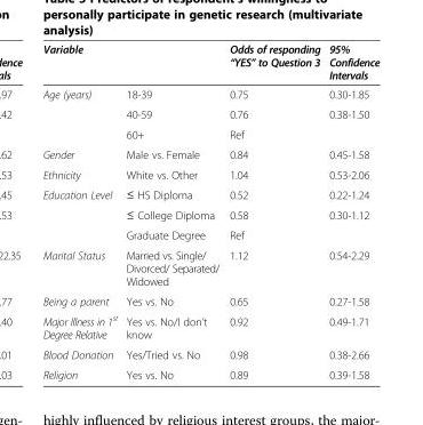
<table><thead><tr><td>Variable</td><td></td><td>Odds of responding “YES” to Question 3</td><td>95% Confidence Intervals</td></tr></thead><tbody><tr><td rowspan="3">Age (years)</td><td>18-39</td><td>0.75</td><td>0.30-1.85</td></tr><tr><td>40-59</td><td>0.76</td><td>0.38-1.50</td></tr><tr><td>60+</td><td>Ref</td><td></td></tr><tr><td>Gender</td><td>Male vs. Female</td><td>0.84</td><td>0.45-1.58</td></tr><tr><td>Ethnicity</td><td>White vs. Other</td><td>1.04</td><td>0.53-2.06</td></tr><tr><td rowspan="3">Education Level</td><td>≤ HS Diploma</td><td>0.52</td><td>0.22-1.24</td></tr><tr><td>≤ College Diploma</td><td>0.58</td><td>0.30-1.12</td></tr><tr><td>Graduate Degree</td><td>Ref</td><td></td></tr><tr><td>Marital Status</td><td>Married vs. Single/ Divorced/ Separated/ Widowed</td><td>1.12</td><td>0.54-2.29</td></tr><tr><td>Being a parent</td><td>Yes vs. No</td><td>0.65</td><td>0.27-1.58</td></tr><tr><td>Major Illness in 1<sup>st</sup> Degree Relative</td><td>Yes vs. No/I don’t know</td><td>0.92</td><td>0.49-1.71</td></tr><tr><td>Blood Donation</td><td>Yes/Tried vs. No</td><td>0.98</td><td>0.38-2.66</td></tr><tr><td>Religion</td><td>Yes vs. No</td><td>0.89</td><td>0.39-1.58</td></tr></tbody></table>